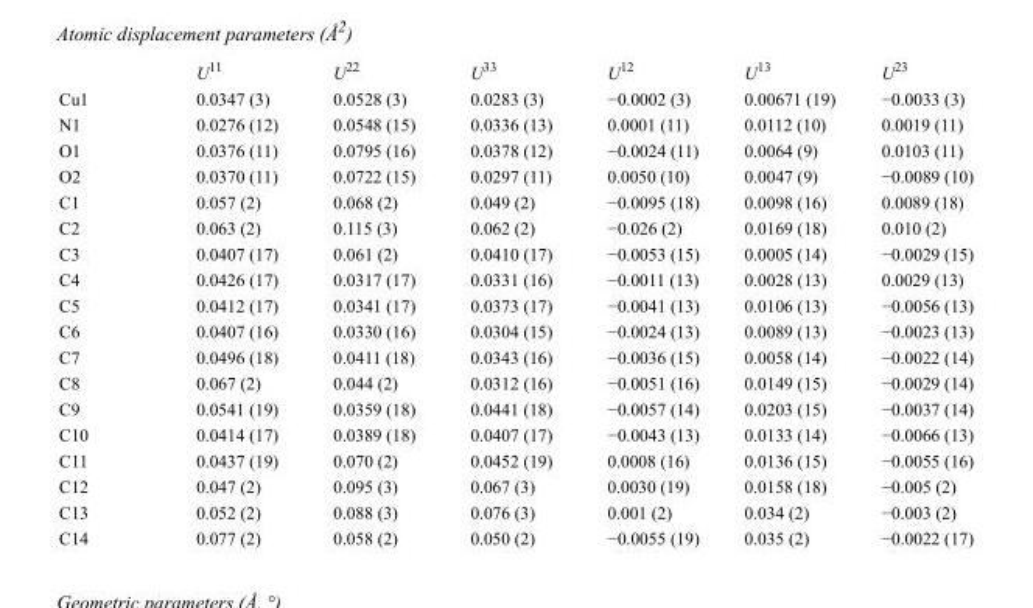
<table><thead><tr><td></td><td>U<sup>11</sup></td><td>U<sup>22</sup></td><td>U<sup>33</sup></td><td>U<sup>12</sup></td><td>U<sup>13</sup></td><td>U<sup>23</sup></td></tr></thead><tbody><tr><td>Cu1</td><td>0.0347 (3)</td><td>0.0528 (3)</td><td>0.0283 (3)</td><td>−0.0002 (3)</td><td>0.00671 (19)</td><td>−0.0033 (3)</td></tr><tr><td>N1</td><td>0.0276 (12)</td><td>0.0548 (15)</td><td>0.0336 (13)</td><td>0.0001 (11)</td><td>0.0112 (10)</td><td>0.0019 (11)</td></tr><tr><td>O1</td><td>0.0376 (11)</td><td>0.0795 (16)</td><td>0.0378 (12)</td><td>−0.0024 (11)</td><td>0.0064 (9)</td><td>0.0103 (11)</td></tr><tr><td>O2</td><td>0.0370 (11)</td><td>0.0722 (15)</td><td>0.0297 (11)</td><td>0.0050 (10)</td><td>0.0047 (9)</td><td>−0.0089 (10)</td></tr><tr><td>C1</td><td>0.057 (2)</td><td>0.068 (2)</td><td>0.049 (2)</td><td>−0.0095 (18)</td><td>0.0098 (16)</td><td>0.0089 (18)</td></tr><tr><td>C2</td><td>0.063 (2)</td><td>0.115 (3)</td><td>0.062 (2)</td><td>−0.026 (2)</td><td>0.0169 (18)</td><td>0.010 (2)</td></tr><tr><td>C3</td><td>0.0407 (17)</td><td>0.061 (2)</td><td>0.0410 (17)</td><td>−0.0053 (15)</td><td>0.0005 (14)</td><td>−0.0029 (15)</td></tr><tr><td>C4</td><td>0.0426 (17)</td><td>0.0317 (17)</td><td>0.0331 (16)</td><td>−0.0011 (13)</td><td>0.0028 (13)</td><td>0.0029 (13)</td></tr><tr><td>C5</td><td>0.0412 (17)</td><td>0.0341 (17)</td><td>0.0373 (17)</td><td>−0.0041 (13)</td><td>0.0106 (13)</td><td>−0.0056 (13)</td></tr><tr><td>C6</td><td>0.0407 (16)</td><td>0.0330 (16)</td><td>0.0304 (15)</td><td>−0.0024 (13)</td><td>0.0089 (13)</td><td>−0.0023 (13)</td></tr><tr><td>C7</td><td>0.0496 (18)</td><td>0.0411 (18)</td><td>0.0343 (16)</td><td>−0.0036 (15)</td><td>0.0058 (14)</td><td>−0.0022 (14)</td></tr><tr><td>C8</td><td>0.067 (2)</td><td>0.044 (2)</td><td>0.0312 (16)</td><td>−0.0051 (16)</td><td>0.0149 (15)</td><td>−0.0029 (14)</td></tr><tr><td>C9</td><td>0.0541 (19)</td><td>0.0359 (18)</td><td>0.0441 (18)</td><td>−0.0057 (14)</td><td>0.0203 (15)</td><td>−0.0037 (14)</td></tr><tr><td>C10</td><td>0.0414 (17)</td><td>0.0389 (18)</td><td>0.0407 (17)</td><td>−0.0043 (13)</td><td>0.0133 (14)</td><td>−0.0066 (13)</td></tr><tr><td>C11</td><td>0.0437 (19)</td><td>0.070 (2)</td><td>0.0452 (19)</td><td>0.0008 (16)</td><td>0.0136 (15)</td><td>−0.0055 (16)</td></tr><tr><td>C12</td><td>0.047 (2)</td><td>0.095 (3)</td><td>0.067 (3)</td><td>0.0030 (19)</td><td>0.0158 (18)</td><td>−0.005 (2)</td></tr><tr><td>C13</td><td>0.052 (2)</td><td>0.088 (3)</td><td>0.076 (3)</td><td>0.001 (2)</td><td>0.034 (2)</td><td>−0.003 (2)</td></tr><tr><td>C14</td><td>0.077 (2)</td><td>0.058 (2)</td><td>0.050 (2)</td><td>−0.0055 (19)</td><td>0.035 (2)</td><td>−0.0022 (17)</td></tr></tbody></table>